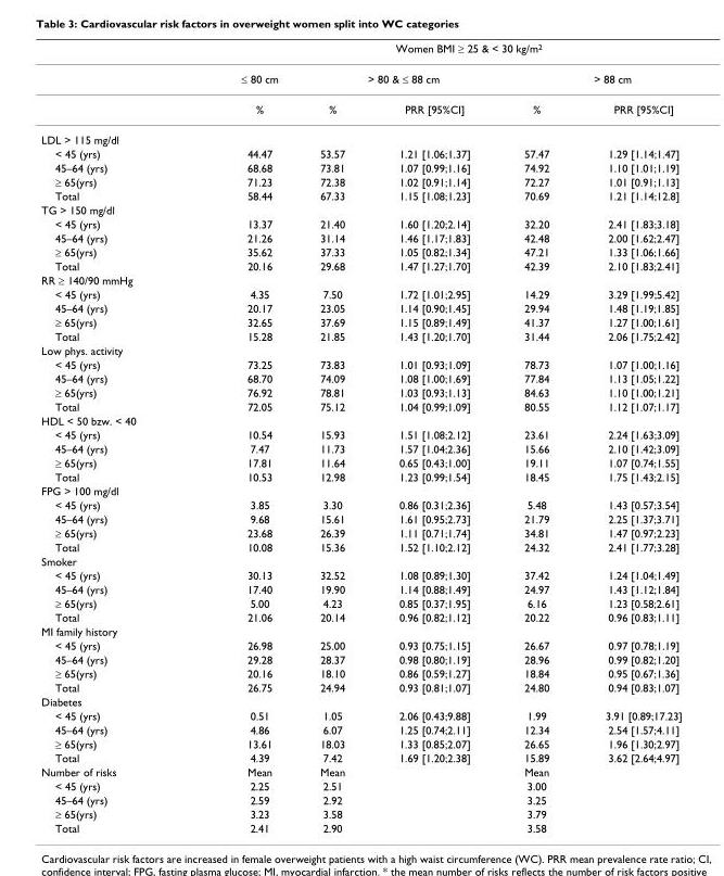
<table><thead><tr><td rowspan="3"></td><td colspan="5">Women BMI ≥ 25 &amp; &lt; 30 kg/m2</td></tr><tr><td rowspan="2">≤ 80 cm %</td><td colspan="2">&gt; 80 &amp; ≤ 88 cm</td><td colspan="2">&gt; 88 cm</td></tr><tr><td>%</td><td>PRR [95%CI]</td><td>%</td><td>PRR [95%CI]</td></tr></thead><tbody><tr><td colspan="6">LDL &gt; 115 mg/dl</td></tr><tr><td>&lt; 45 (yrs)</td><td>44.47</td><td>53.57</td><td>1.21 [1.06;1.37]</td><td>57.47</td><td>1.29 [1.14;1.47]</td></tr><tr><td>45–64 (yrs)</td><td>68.68</td><td>73.81</td><td>1.07 [0.99;1.16]</td><td>74.92</td><td>1.10 [1.01;1.19]</td></tr><tr><td>≥ 65(yrs)</td><td>71.23</td><td>72.38</td><td>1.02 [0.91;1.14]</td><td>72.27</td><td>1.01 [0.91;1.13]</td></tr><tr><td>Total</td><td>58.44</td><td>67.33</td><td>1.15 [1.08;1.23]</td><td>70.69</td><td>1.21 [1.14;12.8]</td></tr><tr><td colspan="6">TG &gt; 150 mg/dl</td></tr><tr><td>&lt; 45 (yrs)</td><td>13.37</td><td>21.40</td><td>1.60 [1.20;2.14]</td><td>32.20</td><td>2.41 [1.83;3.18]</td></tr><tr><td>45–64 (yrs)</td><td>21.26</td><td>31.14</td><td>1.46 [1.17;1.83]</td><td>42.48</td><td>2.00 [1.62;2.47]</td></tr><tr><td>≥ 65(yrs)</td><td>35.62</td><td>37.33</td><td>1.05 [0.82;1.34]</td><td>47.21</td><td>1.33 [1.06;1.66]</td></tr><tr><td>Total</td><td>20.16</td><td>29.68</td><td>1.47 [1.27;1.70]</td><td>42.39</td><td>2.10 [1.83;2.41]</td></tr><tr><td colspan="6">RR ≥ 140/90 mmHg</td></tr><tr><td>&lt; 45 (yrs)</td><td>4.35</td><td>7.50</td><td>1.72 [1.01;2.95]</td><td>14.29</td><td>3.29 [1.99;5.42]</td></tr><tr><td>45–64 (yrs)</td><td>20.17</td><td>23.05</td><td>1.14 [0.90;1.45]</td><td>29.94</td><td>1.48 [1.19;1.85]</td></tr><tr><td>≥ 65(yrs)</td><td>32.65</td><td>37.69</td><td>1.15 [0.89;1.49]</td><td>41.37</td><td>1.27 [1.00;1.61]</td></tr><tr><td>Total</td><td>15.28</td><td>21.85</td><td>1.43 [1.20;1.70]</td><td>31.44</td><td>2.06 [1.75;2.42]</td></tr><tr><td colspan="6">Low phys. activity</td></tr><tr><td>&lt; 45 (yrs)</td><td>73.25</td><td>73.83</td><td>1.01 [0.93;1.09]</td><td>78.73</td><td>1.07 [1.00;1.16]</td></tr><tr><td>45–64 (yrs)</td><td>68.70</td><td>74.09</td><td>1.08 [1.00;1.69]</td><td>77.84</td><td>1.13 [1.05;1.22]</td></tr><tr><td>≥ 65(yrs)</td><td>76.92</td><td>78.81</td><td>1.03 [0.93;1.13]</td><td>84.63</td><td>1.10 [1.00;1.21]</td></tr><tr><td>Total</td><td>72.05</td><td>75.12</td><td>1.04 [0.99;1.09]</td><td>80.55</td><td>1.12 [1.07;1.17]</td></tr><tr><td colspan="6">HDL &lt; 50 bzw. &lt; 40</td></tr><tr><td>&lt; 45 (yrs)</td><td>10.54</td><td>15.93</td><td>1.51 [1.08;2.12]</td><td>23.61</td><td>2.24 [1.63;3.09]</td></tr><tr><td>45–64 (yrs)</td><td>7.47</td><td>11.73</td><td>1.57 [1.04;2.36]</td><td>15.66</td><td>2.10 [1.42;3.09]</td></tr><tr><td>≥ 65(yrs)</td><td>17.81</td><td>11.64</td><td>0.65 [0.43;1.00]</td><td>19.11</td><td>1.07 [0.74;1.55]</td></tr><tr><td>Total</td><td>10.53</td><td>12.98</td><td>1.23 [0.99;1.54]</td><td>18.45</td><td>1.75 [1.43;2.15]</td></tr><tr><td colspan="6">FPG &gt; 100 mg/dl</td></tr><tr><td>&lt; 45 (yrs)</td><td>3.85</td><td>3.30</td><td>0.86 [0.31;2.36]</td><td>5.48</td><td>1.43 [0.57;3.54]</td></tr><tr><td>45–64 (yrs)</td><td>9.68</td><td>15.61</td><td>1.61 [0.95;2.73]</td><td>21.79</td><td>2.25 [1.37;3.71]</td></tr><tr><td>≥ 65(yrs)</td><td>23.68</td><td>26.39</td><td>1.11 [0.71;1.74]</td><td>34.81</td><td>1.47 [0.97;2.23]</td></tr><tr><td>Total</td><td>10.08</td><td>15.36</td><td>1.52 [1.10;2.12]</td><td>24.32</td><td>2.41 [1.77;3.28]</td></tr><tr><td colspan="6">Smoker</td></tr><tr><td>&lt; 45 (yrs)</td><td>30.13</td><td>32.52</td><td>1.08 [0.89;1.30]</td><td>37.42</td><td>1.24 [1.04;1.49]</td></tr><tr><td>45–64 (yrs)</td><td>17.40</td><td>19.90</td><td>1.14 [0.88;1.49]</td><td>24.97</td><td>1.43 [1.12;1.84]</td></tr><tr><td>≥ 65(yrs)</td><td>5.00</td><td>4.23</td><td>0.85 [0.37;1.95]</td><td>6.16</td><td>1.23 [0.58;2.61]</td></tr><tr><td>Total</td><td>21.06</td><td>20.14</td><td>0.96 [0.82;1.12]</td><td>20.22</td><td>0.96 [0.83;1.11]</td></tr><tr><td colspan="6">MI family history</td></tr><tr><td>&lt; 45 (yrs)</td><td>26.98</td><td>25.00</td><td>0.93 [0.75;1.15]</td><td>26.67</td><td>0.97 [0.78;1.19]</td></tr><tr><td>45–64 (yrs)</td><td>29.28</td><td>28.37</td><td>0.98 [0.80;1.19]</td><td>28.96</td><td>0.99 [0.82;1.20]</td></tr><tr><td>≥ 65(yrs)</td><td>20.16</td><td>18.10</td><td>0.86 [0.59;1.27]</td><td>18.84</td><td>0.95 [0.67;1.36]</td></tr><tr><td>Total</td><td>26.75</td><td>24.94</td><td>0.93 [0.81;1.07]</td><td>24.80</td><td>0.94 [0.83;1.07]</td></tr><tr><td colspan="6">Diabetes</td></tr><tr><td>&lt; 45 (yrs)</td><td>0.51</td><td>1.05</td><td>2.06 [0.43;9.88]</td><td>1.99</td><td>3.91 [0.89;17.23]</td></tr><tr><td>45–64 (yrs)</td><td>4.86</td><td>6.07</td><td>1.25 [0.74;2.11]</td><td>12.34</td><td>2.54 [1.57;4.11]</td></tr><tr><td>≥ 65(yrs)</td><td>13.61</td><td>18.03</td><td>1.33 [0.85;2.07]</td><td>26.65</td><td>1.96 [1.30;2.97]</td></tr><tr><td>Total</td><td>4.39</td><td>7.42</td><td>1.69 [1.20;2.38]</td><td>15.89</td><td>3.62 [2.64;4.97]</td></tr><tr><td>Number of risks</td><td>Mean</td><td>Mean</td><td></td><td>Mean</td><td></td></tr><tr><td>&lt; 45 (yrs)</td><td>2.25</td><td>2.51</td><td></td><td>3.00</td><td></td></tr><tr><td>45–64 (yrs)</td><td>2.59</td><td>2.92</td><td></td><td>3.25</td><td></td></tr><tr><td>≥ 65(yrs)</td><td>3.23</td><td>3.58</td><td></td><td>3.79</td><td></td></tr><tr><td>Total</td><td>2.41</td><td>2.90</td><td></td><td>3.58</td><td></td></tr></tbody></table>